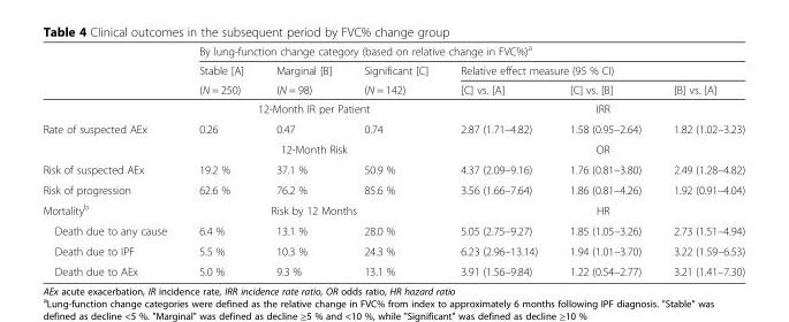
<table><thead><tr><td rowspan="3"></td><td colspan="6">By lung-function change category (based on relative change in FVC%)<sup>a</sup></td></tr><tr><td rowspan="2">Stable [A] (N = 250)</td><td rowspan="2">Marginal [B] (N = 98)</td><td rowspan="2">Significant [C] (N = 142)</td><td colspan="3">Relative effect measure (95 % CI)</td></tr><tr><td>[C] vs. [A]</td><td>[C] vs. [B]</td><td>[B] vs. [A]</td></tr></thead><tbody><tr><td></td><td colspan="3">12-Month IR per Patient</td><td colspan="3">IRR</td></tr><tr><td rowspan="2">Rate of suspected AEx</td><td>0.26</td><td>0.47</td><td>0.74</td><td>2.87 (1.71–4.82)</td><td>1.58 (0.95–2.64)</td><td>1.82 (1.02–3.23)</td></tr><tr><td colspan="3">12-Month Risk</td><td colspan="3">OR</td></tr><tr><td>Risk of suspected AEx</td><td>19.2 %</td><td>37.1 %</td><td>50.9 %</td><td>4.37 (2.09–9.16)</td><td>1.76 (0.81–3.80)</td><td>2.49 (1.28–4.82)</td></tr><tr><td>Risk of progression</td><td>62.6 %</td><td>76.2 %</td><td>85.6 %</td><td>3.56 (1.66–7.64)</td><td>1.86 (0.81–4.26)</td><td>1.92 (0.91–4.04)</td></tr><tr><td>Mortality<sup>b</sup></td><td colspan="3">Risk by 12 Months</td><td colspan="3">HR</td></tr><tr><td>Death due to any cause</td><td>6.4 %</td><td>13.1 %</td><td>28.0 %</td><td>5.05 (2.75–9.27)</td><td>1.85 (1.05–3.26)</td><td>2.73 (1.51–4.94)</td></tr><tr><td>Death due to IPF</td><td>5.5 %</td><td>10.3 %</td><td>24.3 %</td><td>6.23 (2.96–13.14)</td><td>1.94 (1.01–3.70)</td><td>3.22 (1.59–6.53)</td></tr><tr><td>Death due to AEx</td><td>5.0 %</td><td>9.3 %</td><td>13.1 %</td><td>3.91 (1.56–9.84)</td><td>1.22 (0.54–2.77)</td><td>3.21 (1.41–7.30)</td></tr></tbody></table>